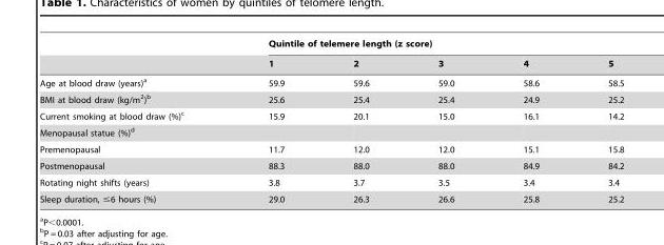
<table><thead><tr><td rowspan="2"></td><td colspan="5">Quintile of telemere length (z score)</td></tr><tr><td>1</td><td>2</td><td>3</td><td>4</td><td>5</td></tr></thead><tbody><tr><td>Age at blood draw (years)<sup>a</sup></td><td>59.9</td><td>59.6</td><td>59.0</td><td>58.6</td><td>58.5</td></tr><tr><td>BMI at blood draw (kg/m<sup>2</sup>)<sup>b</sup></td><td>25.6</td><td>25.4</td><td>25.4</td><td>24.9</td><td>25.2</td></tr><tr><td>Current smoking at blood draw (%)<sup>c</sup></td><td>15.9</td><td>20.1</td><td>15.0</td><td>16.1</td><td>14.2</td></tr><tr><td colspan="6">Menopausal statue (%)<sup>d</sup></td></tr><tr><td>Premenopausal</td><td>11.7</td><td>12.0</td><td>12.0</td><td>15.1</td><td>15.8</td></tr><tr><td>Postmenopausal</td><td>88.3</td><td>88.0</td><td>88.0</td><td>84.9</td><td>84.2</td></tr><tr><td>Rotating night shifts (years)</td><td>3.8</td><td>3.7</td><td>3.5</td><td>3.4</td><td>3.4</td></tr><tr><td>Sleep duration, ≤6 hours (%)</td><td>29.0</td><td>26.3</td><td>26.6</td><td>25.8</td><td>25.2</td></tr></tbody></table>